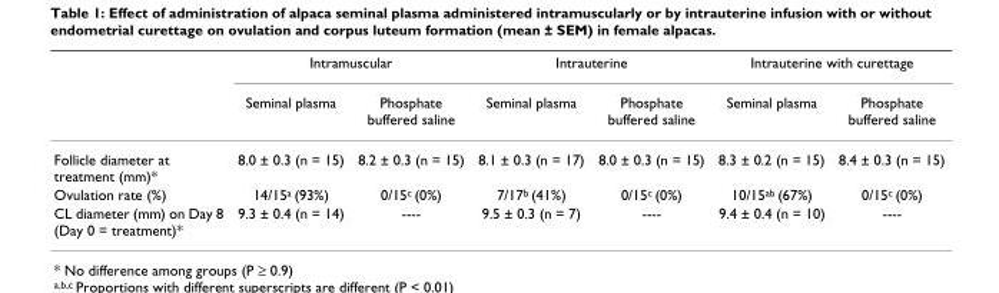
<table><thead><tr><td rowspan="2"></td><td colspan="2">Intramuscular</td><td colspan="2">Intrauterine</td><td colspan="2">Intrauterine with curettage</td></tr><tr><td>Seminal plasma</td><td>Phosphate buffered saline</td><td>Seminal plasma</td><td>Phosphate buffered saline</td><td>Seminal plasma</td><td>Phosphate buffered saline</td></tr></thead><tbody><tr><td>Follicle diameter at treatment (mm)*</td><td>8.0 ± 0.3 (n = 15)</td><td>8.2 ± 0.3 (n = 15)</td><td>8.1 ± 0.3 (n = 17)</td><td>8.0 ± 0.3 (n = 15)</td><td>8.3 ± 0.2 (n = 15)</td><td>8.4 ± 0.3 (n = 15)</td></tr><tr><td>Ovulation rate (%)</td><td>14/15<sup>a</sup> (93%)</td><td>0/15<sup>c</sup> (0%)</td><td>7/17<sup>b</sup> (41%)</td><td>0/15<sup>c</sup> (0%)</td><td>10/15<sup>ab</sup> (67%)</td><td>0/15<sup>c</sup> (0%)</td></tr><tr><td>CL diameter (mm) on Day 8 (Day 0 = treatment)*</td><td>9.3 ± 0.4 (n = 14)</td><td>----</td><td>9.5 ± 0.3 (n = 7)</td><td>----</td><td>9.4 ± 0.4 (n = 10)</td><td>----</td></tr></tbody></table>